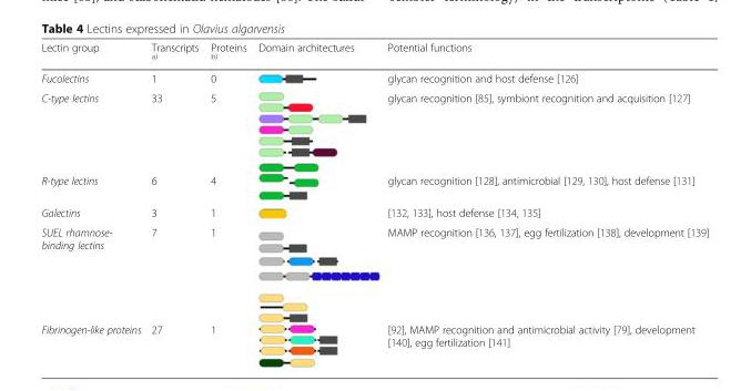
<table><thead><tr><td>Lectin group</td><td>Transcripts <sup>a)</sup></td><td>Proteins <sup>b)</sup></td><td>Domain architectures</td><td>Potential functions</td></tr></thead><tbody><tr><td>Fucolectins</td><td>1</td><td>0</td><td></td><td>glycan recognition and host defense [126]</td></tr><tr><td>C-type lectins</td><td>33</td><td>5</td><td></td><td>glycan recognition [85], symbiont recognition and acquisition [127]</td></tr><tr><td>R-type lectins</td><td>6</td><td>4</td><td></td><td>glycan recognition [128], antimicrobial [129, 130], host defense [131]</td></tr><tr><td>Galectins</td><td>3</td><td>1</td><td></td><td>[132, 133], host defense [134, 135]</td></tr><tr><td>SUEL rhamnose- binding lectins</td><td>7</td><td>1</td><td></td><td>MAMP recognition [136, 137], egg fertilization [138], development [139]</td></tr><tr><td>Fibrinogen-like proteins</td><td>27</td><td>1</td><td></td><td>[92], MAMP recognition and antimicrobial activity [79], development [140], egg fertilization [141]</td></tr></tbody></table>